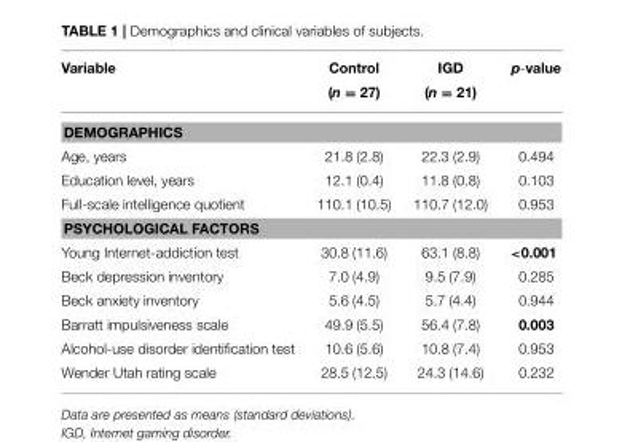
<table><thead><tr><td rowspan="2">Variable</td><td rowspan="2">Control (n = 27)</td><td rowspan="2">IGD (n = 21)</td><td rowspan="2">p-value</td></tr><tr></tr></thead><tbody><tr><td colspan="4">DEMOGRAPHICS</td></tr><tr><td>Age, years</td><td>21.8 (2.8)</td><td>22.3 (2.9)</td><td>0.494</td></tr><tr><td>Education level, years</td><td>12.1 (0.4)</td><td>11.8 (0.8)</td><td>0.103</td></tr><tr><td>Full-scale intelligence quotient</td><td>110.1 (10.5)</td><td>110.7 (12.0)</td><td>0.953</td></tr><tr><td colspan="4">PSYCHOLOGICAL FACTORS</td></tr><tr><td>Young Internet-addiction test</td><td>30.8 (11.6)</td><td>63.1 (8.8)</td><td>&lt;0.001</td></tr><tr><td>Beck depression inventory</td><td>7.0 (4.9)</td><td>9.5 (7.9)</td><td>0.285</td></tr><tr><td>Beck anxiety inventory</td><td>5.6 (4.5)</td><td>5.7 (4.4)</td><td>0.944</td></tr><tr><td>Barratt impulsiveness scale</td><td>49.9 (5.5)</td><td>56.4 (7.8)</td><td>0.003</td></tr><tr><td>Alcohol-use disorder identification test</td><td>10.6 (5.6)</td><td>10.8 (7.4)</td><td>0.953</td></tr><tr><td>Wender Utah rating scale</td><td>28.5 (12.5)</td><td>24.3 (14.6)</td><td>0.232</td></tr></tbody></table>